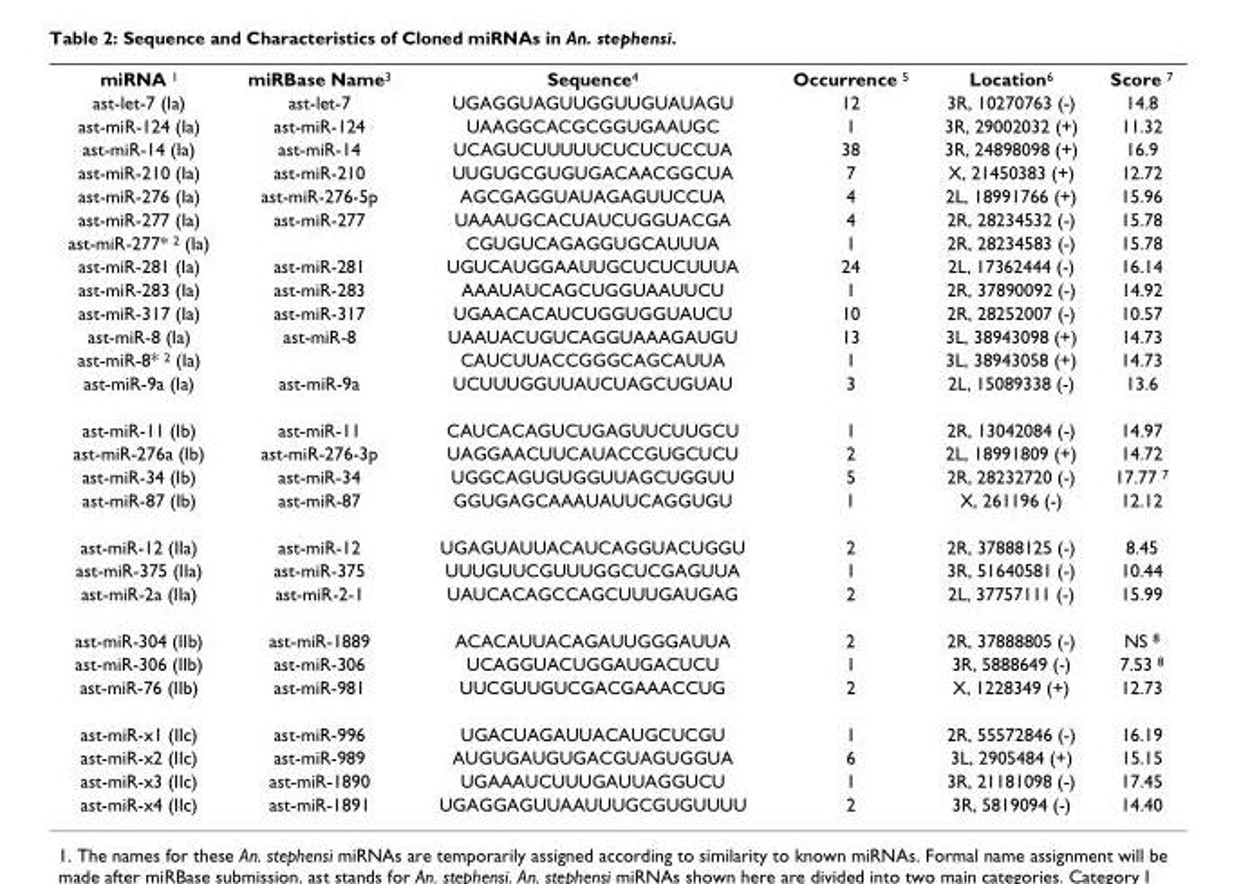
<table><tbody><tr><td>miRNA <sup>1</sup></td><td>miRBase Name<sup>3</sup></td><td>Sequence<sup>4</sup></td><td>Occurrence <sup>5</sup></td><td>Location<sup>6</sup></td><td>Score <sup>7</sup></td></tr><tr><td>ast-let-7 (Ia)</td><td>ast-let-7</td><td>UGAGGUAGUUGGUUGUAUAGU</td><td>12</td><td>3R, 10270763 (-)</td><td>14.8</td></tr><tr><td>ast-miR-124 (Ia)</td><td>ast-miR-124</td><td>UAAGGCACGCGGUGAAUGC</td><td>1</td><td>3R, 29002032 (+)</td><td>11.32</td></tr><tr><td>ast-miR-14 (Ia)</td><td>ast-miR-14</td><td>UCAGUCUUUUUCUCUCUCCUA</td><td>38</td><td>3R, 24898098 (+)</td><td>16.9</td></tr><tr><td>ast-miR-210 (Ia)</td><td>ast-miR-210</td><td>UUGUGCGUGUGACAACGGCUA</td><td>7</td><td>X, 21450383 (+)</td><td>12.72</td></tr><tr><td>ast-miR-276 (Ia)</td><td>ast-miR-276-5p</td><td>AGCGAGGUAUAGAGUUCCUA</td><td>4</td><td>2L, 18991766 (+)</td><td>15.96</td></tr><tr><td>ast-miR-277 (Ia)</td><td>ast-miR-277</td><td>UAAAUGCACUAUCUGGUACGA</td><td>4</td><td>2R, 28234532 (-)</td><td>15.78</td></tr><tr><td>ast-miR-277* <sup>2</sup> (Ia)</td><td></td><td>CGUGUCAGAGGUGCAUUUA</td><td>1</td><td>2R, 28234583 (-)</td><td>15.78</td></tr><tr><td>ast-miR-281 (Ia)</td><td>ast-miR-281</td><td>UGUCAUGGAAUUGCUCUCUUUA</td><td>24</td><td>2L, 17362444 (-)</td><td>16.14</td></tr><tr><td>ast-miR-283 (Ia)</td><td>ast-miR-283</td><td>AAAUAUCAGCUGGUAAUUCU</td><td>1</td><td>2R, 37890092 (-)</td><td>14.92</td></tr><tr><td>ast-miR-317 (Ia)</td><td>ast-miR-317</td><td>UGAACACAUCUGGUGGUAUCU</td><td>10</td><td>2R, 28252007 (-)</td><td>10.57</td></tr><tr><td>ast-miR-8 (Ia)</td><td>ast-miR-8</td><td>UAAUACUGUCAGGUAAAGAUGU</td><td>13</td><td>3L, 38943098 (+)</td><td>14.73</td></tr><tr><td>ast-miR-8* <sup>2</sup> (Ia)</td><td></td><td>CAUCUUACCGGGCAGCAUUA</td><td>1</td><td>3L, 38943058 (+)</td><td>14.73</td></tr><tr><td>ast-miR-9a (Ia)</td><td>ast-miR-9a</td><td>UCUUUGGUUAUCUAGCUGUAU</td><td>3</td><td>2L, 15089338 (-)</td><td>13.6</td></tr><tr><td>ast-miR-11 (Ib)</td><td>ast-miR-11</td><td>CAUCACAGUCUGAGUUCUUGCU</td><td>1</td><td>2R, 13042084 (-)</td><td>14.97</td></tr><tr><td>ast-miR-276a (Ib)</td><td>ast-miR-276-3p</td><td>UAGGAACUUCAUACCGUGCUCU</td><td>2</td><td>2L, 18991809 (+)</td><td>14.72</td></tr><tr><td>ast-miR-34 (Ib)</td><td>ast-miR-34</td><td>UGGCAGUGUGGUUAGCUGGUU</td><td>5</td><td>2R, 28232720 (-)</td><td>17.77 <sup>7</sup></td></tr><tr><td>ast-miR-87 (Ib)</td><td>ast-miR-87</td><td>GGUGAGCAAAUAUUCAGGUGU</td><td>1</td><td>X, 261196 (-)</td><td>12.12</td></tr><tr><td>ast-miR-12 (IIa)</td><td>ast-miR-12</td><td>UGAGUAUUACAUCAGGUACUGGU</td><td>2</td><td>2R, 37888125 (-)</td><td>8.45</td></tr><tr><td>ast-miR-375 (IIa)</td><td>ast-miR-375</td><td>UUUGUUCGUUUGGCUCGAGUUA</td><td>1</td><td>3R, 51640581 (-)</td><td>10.44</td></tr><tr><td>ast-miR-2a (IIa)</td><td>ast-miR-2-1</td><td>UAUCACAGCCAGCUUUGAUGAG</td><td>2</td><td>2L, 37757111 (-)</td><td>15.99</td></tr><tr><td>ast-miR-304 (IIb)</td><td>ast-miR-1889</td><td>ACACAUUACAGAUUGGGAUUA</td><td>2</td><td>2R, 37888805 (-)</td><td>NS <sup>8</sup></td></tr><tr><td>ast-miR-306 (IIb)</td><td>ast-miR-306</td><td>UCAGGUACUGGAUGACUCU</td><td>1</td><td>3R, 5888649 (-)</td><td>7.53 <sup>8</sup></td></tr><tr><td>ast-miR-76 (IIb)</td><td>ast-miR-981</td><td>UUCGUUGUCGACGAAACCUG</td><td>2</td><td>X, 1228349 (+)</td><td>12.73</td></tr><tr><td>ast-miR-x1 (IIc)</td><td>ast-miR-996</td><td>UGACUAGAUUACAUGCUCGU</td><td>1</td><td>2R, 55572846 (-)</td><td>16.19</td></tr><tr><td>ast-miR-x2 (IIc)</td><td>ast-miR-989</td><td>AUGUGAUGUGACGUAGUGGUA</td><td>6</td><td>3L, 2905484 (+)</td><td>15.15</td></tr><tr><td>ast-miR-x3 (IIc)</td><td>ast-miR-1890</td><td>UGAAAUCUUUGAUUAGGUCU</td><td>1</td><td>3R, 21181098 (-)</td><td>17.45</td></tr><tr><td>ast-miR-x4 (IIc)</td><td>ast-miR-1891</td><td>UGAGGAGUUAAUUUGCGUGUUUU</td><td>2</td><td>3R, 5819094 (-)</td><td>14.40</td></tr></tbody></table>